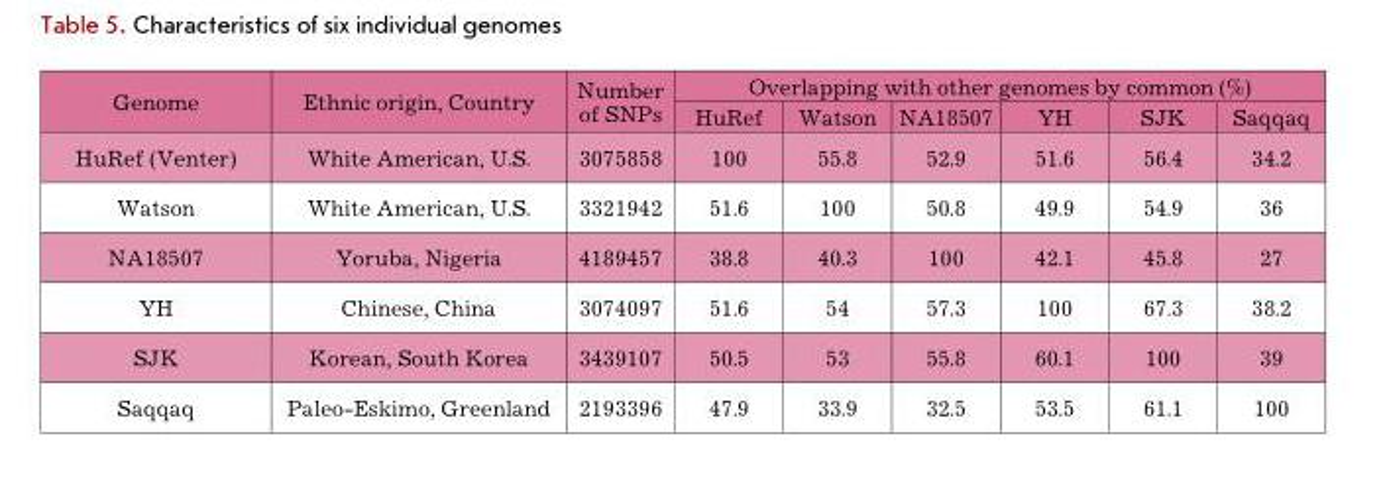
<table><thead><tr><td rowspan="2">Genome</td><td rowspan="2">Ethnic origin, Country</td><td rowspan="2">Number of SNPs</td><td colspan="6">Overlapping with other genomes by common (%)</td></tr><tr><td>HuRef</td><td>Watson</td><td>NA18507</td><td>YH</td><td>SJK</td><td>Saqqaq</td></tr></thead><tbody><tr><td>HuRef (Venter)</td><td>White American, U.S.</td><td>3075858</td><td>100</td><td>55.8</td><td>52.9</td><td>51.6</td><td>56.4</td><td>34.2</td></tr><tr><td>Watson</td><td>White American, U.S.</td><td>3321942</td><td>51.6</td><td>100</td><td>50.8</td><td>49.9</td><td>54.9</td><td>36</td></tr><tr><td>NA18507</td><td>Yoruba, Nigeria</td><td>4189457</td><td>38.8</td><td>40.3</td><td>100</td><td>42.1</td><td>45.8</td><td>27</td></tr><tr><td>YH</td><td>Chinese, China</td><td>3074097</td><td>51.6</td><td>54</td><td>57.3</td><td>100</td><td>67.3</td><td>38.2</td></tr><tr><td>SJK</td><td>Korean, South Korea</td><td>3439107</td><td>50.5</td><td>53</td><td>55.8</td><td>60.1</td><td>100</td><td>39</td></tr><tr><td>Saqqaq</td><td>Paleo-Eskimo, Greenland</td><td>2193396</td><td>47.9</td><td>33.9</td><td>32.5</td><td>53.5</td><td>61.1</td><td>100</td></tr></tbody></table>